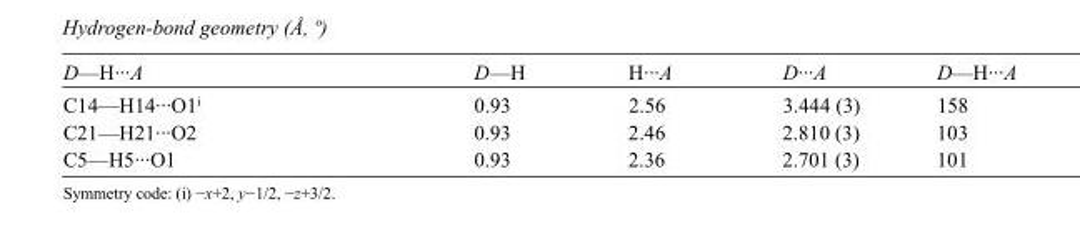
<table><tbody><tr><td>D—H···A</td><td>D—H</td><td>H···A</td><td>D···A</td><td>D—H···A</td></tr><tr><td>C14—H14···O1<sup>i</sup></td><td>0.93</td><td>2.56</td><td>3.444 (3)</td><td>158</td></tr><tr><td>C21—H21···O2</td><td>0.93</td><td>2.46</td><td>2.810 (3)</td><td>103</td></tr><tr><td>C5—H5···O1</td><td>0.93</td><td>2.36</td><td>2.701 (3)</td><td>101</td></tr></tbody></table>